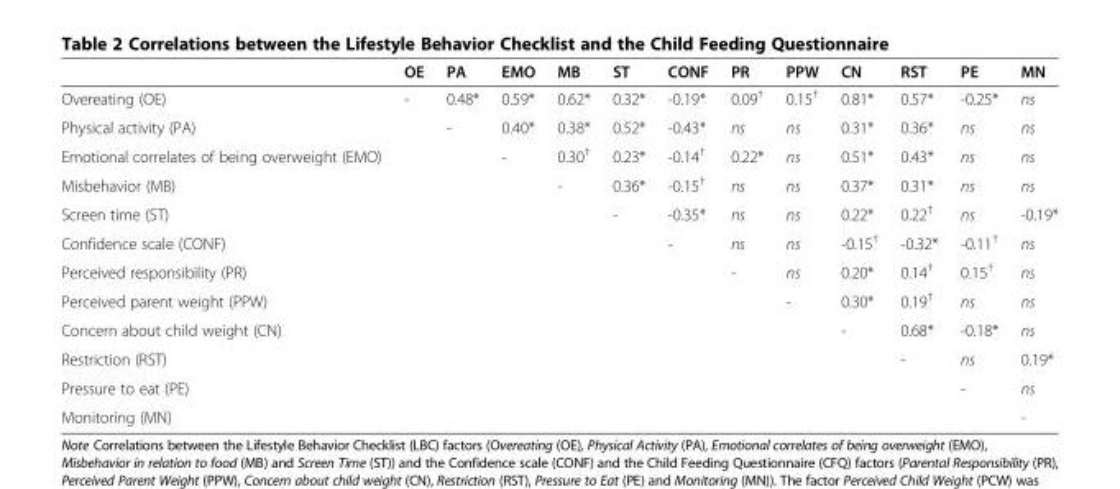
<table><thead><tr><td></td><td>OE</td><td>PA</td><td>EMO</td><td>MB</td><td>ST</td><td>CONF</td><td>PR</td><td>PPW</td><td>CN</td><td>RST</td><td>PE</td><td>MN</td></tr></thead><tbody><tr><td>Overeating (OE)</td><td>-</td><td>0.48*</td><td>0.59*</td><td>0.62*</td><td>0.32*</td><td>-0.19*</td><td>0.09<sup>†</sup></td><td>0.15<sup>†</sup></td><td>0.81*</td><td>0.57*</td><td>-0.25*</td><td>ns</td></tr><tr><td>Physical activity (PA)</td><td></td><td>-</td><td>0.40*</td><td>0.38*</td><td>0.52*</td><td>-0.43*</td><td>ns</td><td>ns</td><td>0.31*</td><td>0.36*</td><td>ns</td><td>ns</td></tr><tr><td>Emotional correlates of being overweight (EMO)</td><td></td><td></td><td>-</td><td>0.30<sup>†</sup></td><td>0.23*</td><td>-0.14<sup>†</sup></td><td>0.22*</td><td>ns</td><td>0.51*</td><td>0.43*</td><td>ns</td><td>ns</td></tr><tr><td>Misbehavior (MB)</td><td></td><td></td><td></td><td>-</td><td>0.36*</td><td>-0.15<sup>†</sup></td><td>ns</td><td>ns</td><td>0.37*</td><td>0.31*</td><td>ns</td><td>ns</td></tr><tr><td>Screen time (ST)</td><td></td><td></td><td></td><td></td><td>-</td><td>-0.35*</td><td>ns</td><td>ns</td><td>0.22*</td><td>0.22<sup>†</sup></td><td>ns</td><td>-0.19*</td></tr><tr><td>Confidence scale (CONF)</td><td></td><td></td><td></td><td></td><td></td><td>-</td><td>ns</td><td>ns</td><td>-0.15<sup>†</sup></td><td>-0.32*</td><td>-0.11<sup>†</sup></td><td>ns</td></tr><tr><td>Perceived responsibility (PR)</td><td></td><td></td><td></td><td></td><td></td><td></td><td>-</td><td>ns</td><td>0.20*</td><td>0.14<sup>†</sup></td><td>0.15<sup>†</sup></td><td>ns</td></tr><tr><td>Perceived parent weight (PPW)</td><td></td><td></td><td></td><td></td><td></td><td></td><td></td><td>-</td><td>0.30*</td><td>0.19<sup>†</sup></td><td>ns</td><td>ns</td></tr><tr><td>Concern about child weight (CN)</td><td></td><td></td><td></td><td></td><td></td><td></td><td></td><td></td><td>-</td><td>0.68*</td><td>-0.18*</td><td>ns</td></tr><tr><td>Restriction (RST)</td><td></td><td></td><td></td><td></td><td></td><td></td><td></td><td></td><td></td><td>-</td><td>ns</td><td>0.19*</td></tr><tr><td>Pressure to eat (PE)</td><td></td><td></td><td></td><td></td><td></td><td></td><td></td><td></td><td></td><td></td><td>-</td><td>ns</td></tr><tr><td>Monitoring (MN)</td><td></td><td></td><td></td><td></td><td></td><td></td><td></td><td></td><td></td><td></td><td></td><td>-</td></tr></tbody></table>